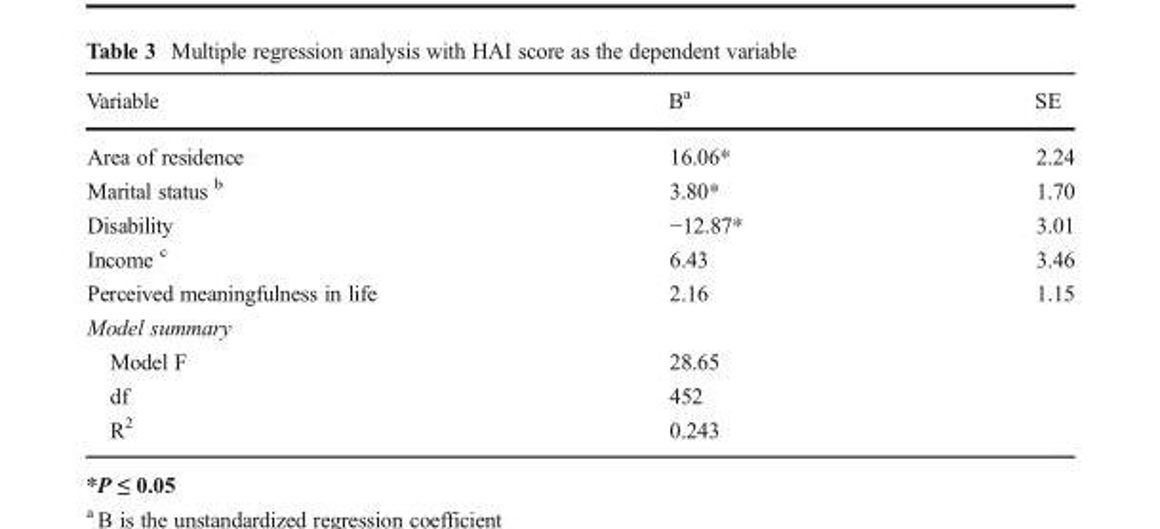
<table><thead><tr><td>Variable</td><td>B<sup>a</sup></td><td>SE</td></tr></thead><tbody><tr><td>Area of residence</td><td>16.06*</td><td>2.24</td></tr><tr><td>Marital status <sup>b</sup></td><td>3.80*</td><td>1.70</td></tr><tr><td>Disability</td><td>−12.87*</td><td>3.01</td></tr><tr><td>Income <sup>c</sup></td><td>6.43</td><td>3.46</td></tr><tr><td>Perceived meaningfulness in life</td><td>2.16</td><td>1.15</td></tr><tr><td colspan="3">Model summary</td></tr><tr><td>Model F</td><td>28.65</td><td></td></tr><tr><td>df</td><td>452</td><td></td></tr><tr><td>R<sup>2</sup></td><td>0.243</td><td></td></tr></tbody></table>